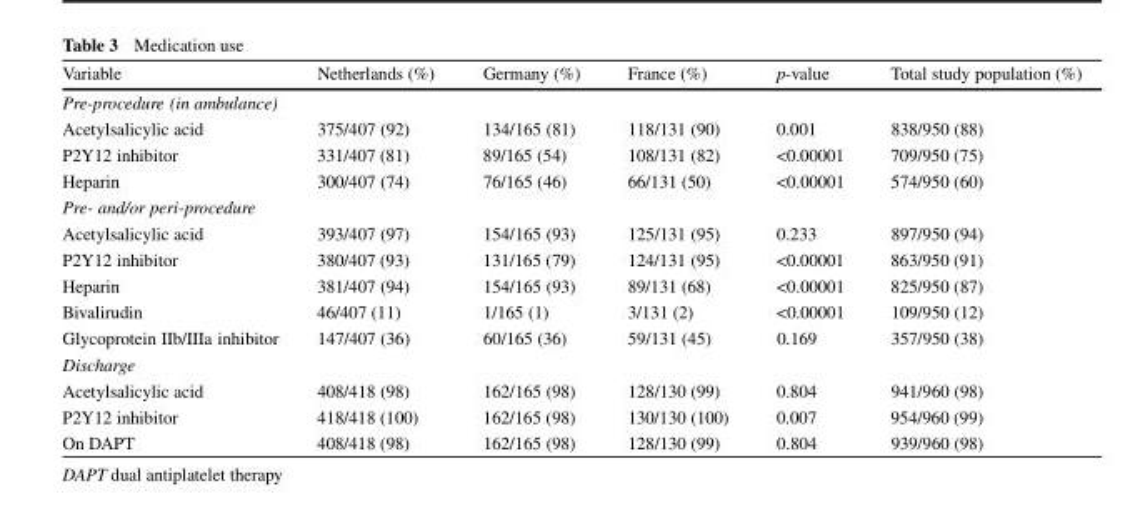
<table><thead><tr><td>Variable</td><td>Netherlands (%)</td><td>Germany (%)</td><td>France (%)</td><td>p-value</td><td>Total study population (%)</td></tr></thead><tbody><tr><td colspan="6">Pre-procedure (in ambulance)</td></tr><tr><td>Acetylsalicylic acid</td><td>375/407 (92)</td><td>134/165 (81)</td><td>118/131 (90)</td><td>0.001</td><td>838/950 (88)</td></tr><tr><td>P2Y12 inhibitor</td><td>331/407 (81)</td><td>89/165 (54)</td><td>108/131 (82)</td><td>&lt;0.00001</td><td>709/950 (75)</td></tr><tr><td>Heparin</td><td>300/407 (74)</td><td>76/165 (46)</td><td>66/131 (50)</td><td>&lt;0.00001</td><td>574/950 (60)</td></tr><tr><td colspan="6">Pre- and/or peri-procedure</td></tr><tr><td>Acetylsalicylic acid</td><td>393/407 (97)</td><td>154/165 (93)</td><td>125/131 (95)</td><td>0.233</td><td>897/950 (94)</td></tr><tr><td>P2Y12 inhibitor</td><td>380/407 (93)</td><td>131/165 (79)</td><td>124/131 (95)</td><td>&lt;0.00001</td><td>863/950 (91)</td></tr><tr><td>Heparin</td><td>381/407 (94)</td><td>154/165 (93)</td><td>89/131 (68)</td><td>&lt;0.00001</td><td>825/950 (87)</td></tr><tr><td>Bivalirudin</td><td>46/407 (11)</td><td>1/165 (1)</td><td>3/131 (2)</td><td>&lt;0.00001</td><td>109/950 (12)</td></tr><tr><td>Glycoprotein IIb/IIIa inhibitor</td><td>147/407 (36)</td><td>60/165 (36)</td><td>59/131 (45)</td><td>0.169</td><td>357/950 (38)</td></tr><tr><td colspan="6">Discharge</td></tr><tr><td>Acetylsalicylic acid</td><td>408/418 (98)</td><td>162/165 (98)</td><td>128/130 (99)</td><td>0.804</td><td>941/960 (98)</td></tr><tr><td>P2Y12 inhibitor</td><td>418/418 (100)</td><td>162/165 (98)</td><td>130/130 (100)</td><td>0.007</td><td>954/960 (99)</td></tr><tr><td>On DAPT</td><td>408/418 (98)</td><td>162/165 (98)</td><td>128/130 (99)</td><td>0.804</td><td>939/960 (98)</td></tr></tbody></table>